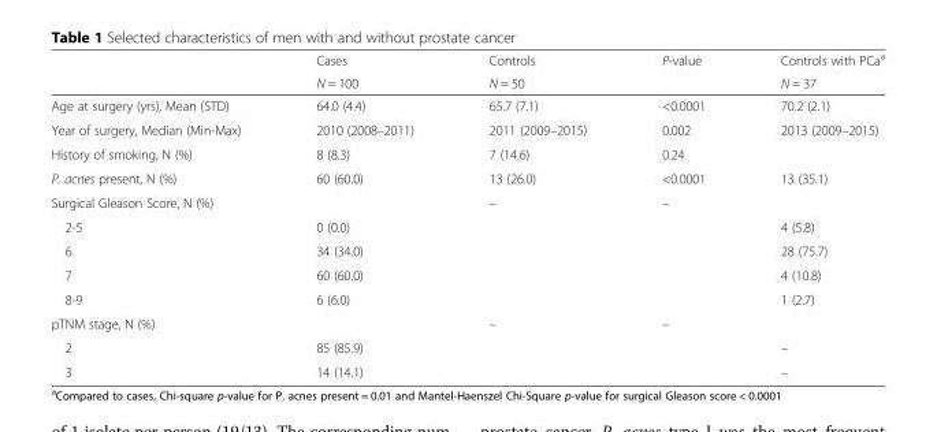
<table><thead><tr><td rowspan="2"></td><td rowspan="2">Cases N = 100</td><td rowspan="2">Controls N = 50</td><td rowspan="2">P-value</td><td rowspan="2">Controls with PCa<sup>a</sup> N = 37</td></tr><tr></tr></thead><tbody><tr><td>Age at surgery (yrs), Mean (STD)</td><td>64.0 (4.4)</td><td>65.7 (7.1)</td><td>&lt;0.0001</td><td>70.2 (2.1)</td></tr><tr><td>Year of surgery, Median (Min-Max)</td><td>2010 (2008–2011)</td><td>2011 (2009–2015)</td><td>0.002</td><td>2013 (2009–2015)</td></tr><tr><td>History of smoking, N (%)</td><td>8 (8.3)</td><td>7 (14.6)</td><td>0.24</td><td></td></tr><tr><td>P. acnes present, N (%)</td><td>60 (60.0)</td><td>13 (26.0)</td><td>&lt;0.0001</td><td>13 (35.1)</td></tr><tr><td>Surgical Gleason Score, N (%)</td><td></td><td>–</td><td>–</td><td></td></tr><tr><td>2-5</td><td>0 (0.0)</td><td></td><td></td><td>4 (5.8)</td></tr><tr><td>6</td><td>34 (34.0)</td><td></td><td></td><td>28 (75.7)</td></tr><tr><td>7</td><td>60 (60.0)</td><td></td><td></td><td>4 (10.8)</td></tr><tr><td>8-9</td><td>6 (6.0)</td><td></td><td></td><td>1 (2.7)</td></tr><tr><td>pTNM stage, N (%)</td><td></td><td>–</td><td>–</td><td></td></tr><tr><td>2</td><td>85 (85.9)</td><td></td><td></td><td>–</td></tr><tr><td>3</td><td>14 (14.1)</td><td></td><td></td><td>–</td></tr></tbody></table>